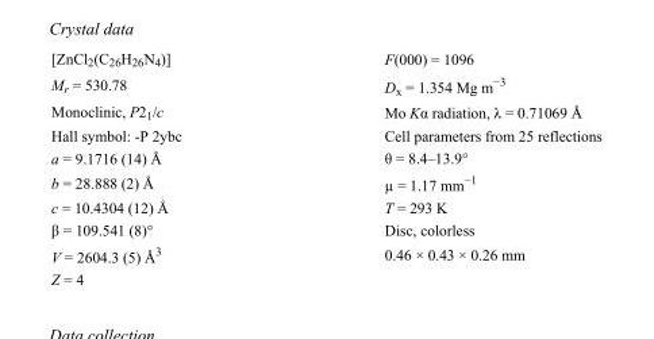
<table><tbody><tr><td>[ZnCl<sub>2</sub>(C<sub>26</sub>H<sub>26</sub>N<sub>4</sub>)]</td><td>F(000) = 1096</td></tr><tr><td>M<sub>r</sub> = 530.78</td><td>D<sub>x</sub> = 1.354 Mg m<sup>−3</sup></td></tr><tr><td>Monoclinic, P2<sub>1</sub>/c</td><td>Mo Kα radiation, λ = 0.71069 Å</td></tr><tr><td>Hall symbol: -P 2ybc</td><td>Cell parameters from 25 reflections</td></tr><tr><td>a = 9.1716 (14) Å</td><td>θ = 8.4–13.9°</td></tr><tr><td>b = 28.888 (2) Å</td><td>µ = 1.17 mm<sup>−1</sup></td></tr><tr><td>c = 10.4304 (12) Å</td><td>T = 293 K</td></tr><tr><td>β = 109.541 (8)°</td><td>Disc, colorless</td></tr><tr><td>V = 2604.3 (5) Å<sup>3</sup></td><td>0.46 × 0.43 × 0.26 mm</td></tr><tr><td>Z = 4</td><td></td></tr></tbody></table>